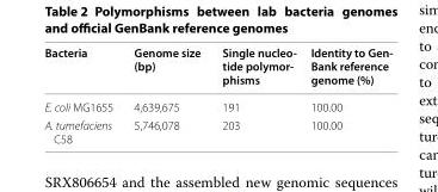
<table><thead><tr><td>Bacteria</td><td>Genome size (bp)</td><td>Single nucleo- tide polymor- phisms</td><td>Identity to Gen- Bank reference genome (%)</td></tr></thead><tbody><tr><td>E. coli MG1655</td><td>4,639,675</td><td>191</td><td>100.00</td></tr><tr><td>A. tumefaciens C58</td><td>5,746,078</td><td>203</td><td>100.00</td></tr></tbody></table>